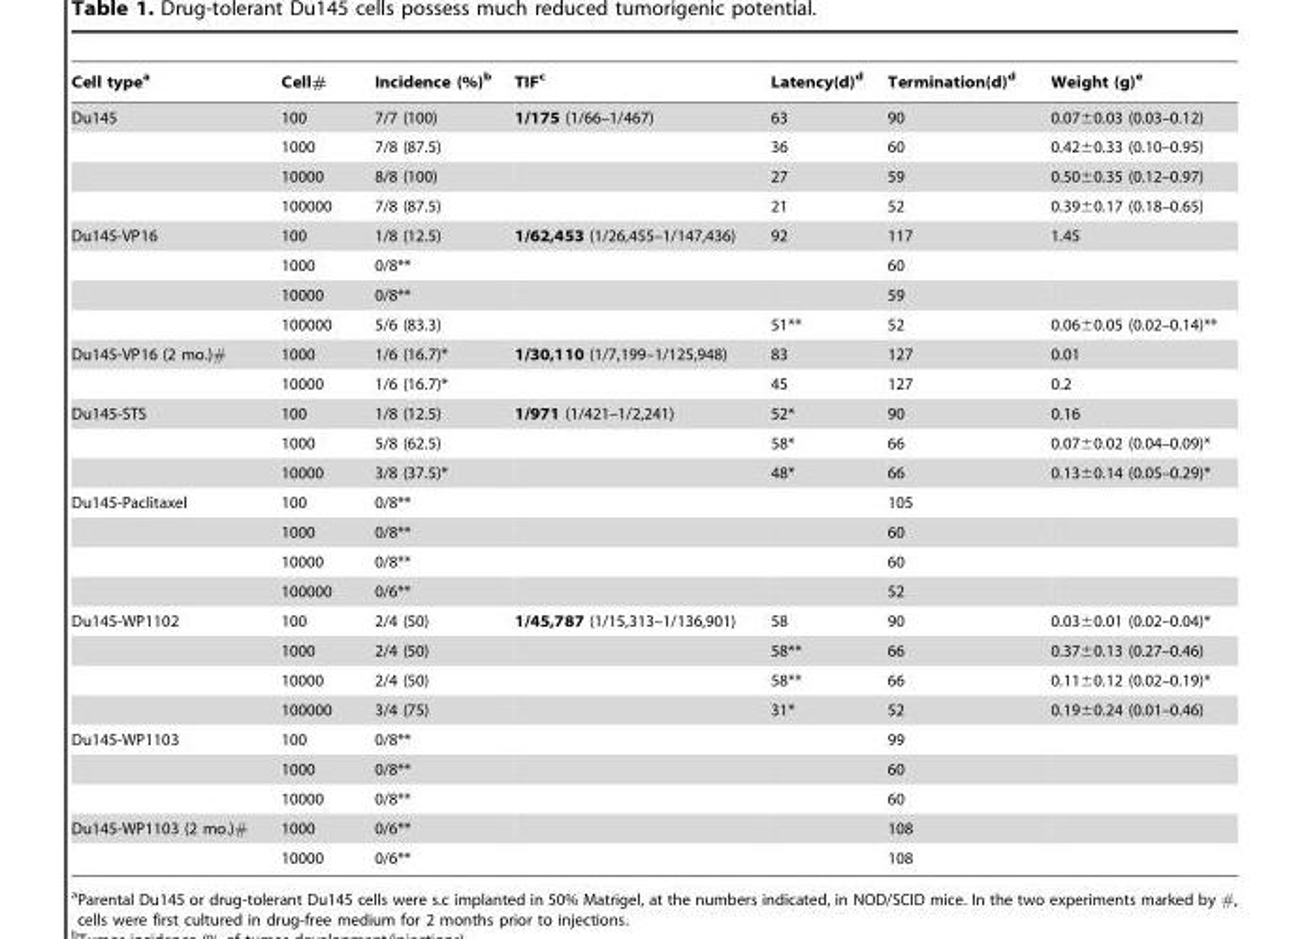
<table><thead><tr><td>Cell type<sup>a</sup></td><td>Cell#</td><td>Incidence (%)<sup>b</sup></td><td>TIF<sup>c</sup></td><td>Latency(d)<sup>d</sup></td><td>Termination(d)<sup>d</sup></td><td>Weight (g)<sup>e</sup></td></tr></thead><tbody><tr><td rowspan="4">Du145</td><td>100</td><td>7/7 (100)</td><td>1/175 (1/66–1/467)</td><td>63</td><td>90</td><td>0.07±0.03 (0.03–0.12)</td></tr><tr><td>1000</td><td>7/8 (87.5)</td><td></td><td>36</td><td>60</td><td>0.42±0.33 (0.10–0.95)</td></tr><tr><td>10000</td><td>8/8 (100)</td><td></td><td>27</td><td>59</td><td>0.50±0.35 (0.12–0.97)</td></tr><tr><td>100000</td><td>7/8 (87.5)</td><td></td><td>21</td><td>52</td><td>0.39±0.17 (0.18–0.65)</td></tr><tr><td rowspan="4">Du145-VP16</td><td>100</td><td>1/8 (12.5)</td><td>1/62,453 (1/26,455–1/147,436)</td><td>92</td><td>117</td><td>1.45</td></tr><tr><td>1000</td><td>0/8**</td><td></td><td></td><td>60</td><td></td></tr><tr><td>10000</td><td>0/8**</td><td></td><td></td><td>59</td><td></td></tr><tr><td>100000</td><td>5/6 (83.3)</td><td></td><td>51**</td><td>52</td><td>0.06±0.05 (0.02–0.14)**</td></tr><tr><td rowspan="2">Du145-VP16 (2 mo.)#</td><td>1000</td><td>1/6 (16.7)*</td><td>1/30,110 (1/7,199–1/125,948)</td><td>83</td><td>127</td><td>0.01</td></tr><tr><td>10000</td><td>1/6 (16.7)*</td><td></td><td>45</td><td>127</td><td>0.2</td></tr><tr><td rowspan="3">Du145-STS</td><td>100</td><td>1/8 (12.5)</td><td>1/971 (1/421–1/2,241)</td><td>52*</td><td>90</td><td>0.16</td></tr><tr><td>1000</td><td>5/8 (62.5)</td><td></td><td>58*</td><td>66</td><td>0.07±0.02 (0.04–0.09)*</td></tr><tr><td>10000</td><td>3/8 (37.5)*</td><td></td><td>48*</td><td>66</td><td>0.13±0.14 (0.05–0.29)*</td></tr><tr><td rowspan="4">Du145-Paclitaxel</td><td>100</td><td>0/8**</td><td></td><td></td><td>105</td><td></td></tr><tr><td>1000</td><td>0/8**</td><td></td><td></td><td>60</td><td></td></tr><tr><td>10000</td><td>0/8**</td><td></td><td></td><td>60</td><td></td></tr><tr><td>100000</td><td>0/6**</td><td></td><td></td><td>52</td><td></td></tr><tr><td rowspan="4">Du145-WP1102</td><td>100</td><td>2/4 (50)</td><td>1/45,787 (1/15,313–1/136,901)</td><td>58</td><td>90</td><td>0.03±0.01 (0.02–0.04)*</td></tr><tr><td>1000</td><td>2/4 (50)</td><td></td><td>58**</td><td>66</td><td>0.37±0.13 (0.27–0.46)</td></tr><tr><td>10000</td><td>2/4 (50)</td><td></td><td>58**</td><td>66</td><td>0.11±0.12 (0.02–0.19)*</td></tr><tr><td>100000</td><td>3/4 (75)</td><td></td><td>31*</td><td>52</td><td>0.19±0.24 (0.01–0.46)</td></tr><tr><td rowspan="3">Du145-WP1103</td><td>100</td><td>0/8**</td><td></td><td></td><td>99</td><td></td></tr><tr><td>1000</td><td>0/8**</td><td></td><td></td><td>60</td><td></td></tr><tr><td>10000</td><td>0/8**</td><td></td><td></td><td>60</td><td></td></tr><tr><td rowspan="2">Du145-WP1103 (2 mo.)#</td><td>1000</td><td>0/6**</td><td></td><td></td><td>108</td><td></td></tr><tr><td>10000</td><td>0/6**</td><td></td><td></td><td>108</td><td></td></tr></tbody></table>